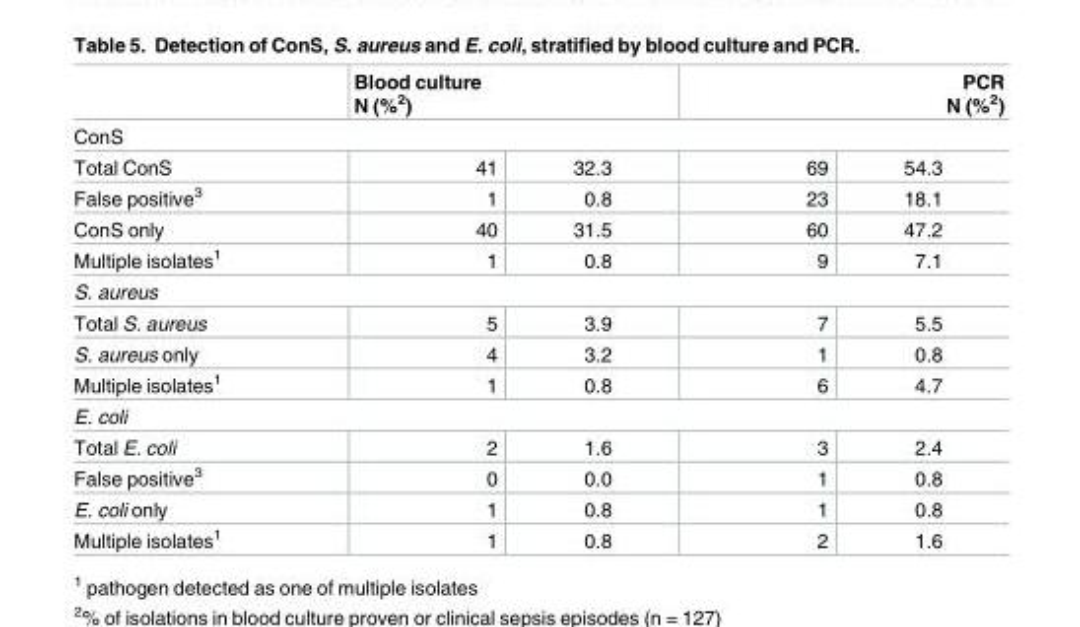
<table><thead><tr><td></td><td colspan="2">Blood culture N (%<sup>2</sup>)</td><td colspan="2">PCR N (%<sup>2</sup>)</td></tr><tr><td colspan="5">ConS</td></tr><tr><td>Total ConS</td><td>41</td><td>32.3</td><td>69</td><td>54.3</td></tr></thead><tbody><tr><td>False positive<sup>3</sup></td><td>1</td><td>0.8</td><td>23</td><td>18.1</td></tr><tr><td>ConS only</td><td>40</td><td>31.5</td><td>60</td><td>47.2</td></tr><tr><td>Multiple isolates<sup>1</sup></td><td>1</td><td>0.8</td><td>9</td><td>7.1</td></tr><tr><td colspan="5">S. aureus</td></tr><tr><td>Total S. aureus</td><td>5</td><td>3.9</td><td>7</td><td>5.5</td></tr><tr><td>S. aureus only</td><td>4</td><td>3.2</td><td>1</td><td>0.8</td></tr><tr><td>Multiple isolates<sup>1</sup></td><td>1</td><td>0.8</td><td>6</td><td>4.7</td></tr><tr><td colspan="5">E. coli</td></tr><tr><td>Total E. coli</td><td>2</td><td>1.6</td><td>3</td><td>2.4</td></tr><tr><td>False positive<sup>3</sup></td><td>0</td><td>0.0</td><td>1</td><td>0.8</td></tr><tr><td>E. coli only</td><td>1</td><td>0.8</td><td>1</td><td>0.8</td></tr><tr><td>Multiple isolates<sup>1</sup></td><td>1</td><td>0.8</td><td>2</td><td>1.6</td></tr></tbody></table>